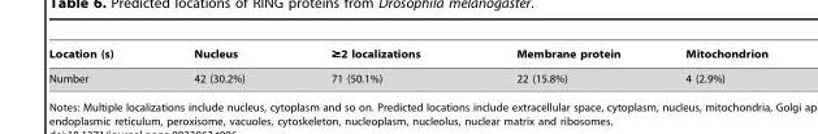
<table><thead><tr><td>Location (s)</td><td>Nucleus</td><td>≥2 localizations</td><td>Membrane protein</td><td>Mitochondrion</td></tr></thead><tbody><tr><td>Number</td><td>42 (30.2%)</td><td>71 (50.1%)</td><td>22 (15.8%)</td><td>4 (2.9%)</td></tr></tbody></table>